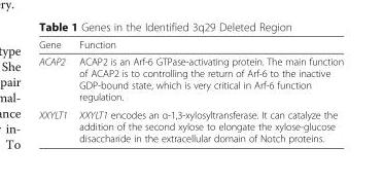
<table><thead><tr><td>Gene</td><td>Function</td></tr></thead><tbody><tr><td>ACAP2</td><td>ACAP2 is an Arf-6 GTPase-activating protein. The main function of ACAP2 is to controlling the return of Arf-6 to the inactive GDP-bound state, which is very critical in Arf-6 function regulation.</td></tr><tr><td>XXYLT1</td><td>XXYLT1 encodes an α-1,3-xylosyltransferase. It can catalyze the addition of the second xylose to elongate the xylose-glucose disaccharide in the extracellular domain of Notch proteins.</td></tr></tbody></table>